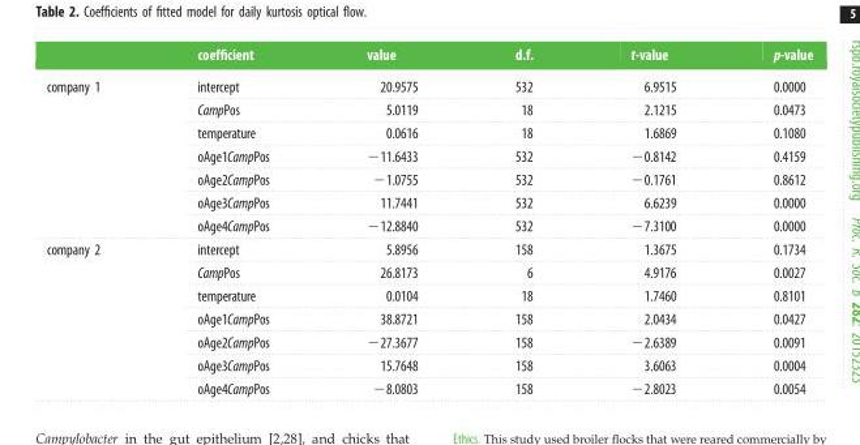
<table><thead><tr><td></td><td>coefficient</td><td>value</td><td>d.f.</td><td>t-value</td><td>p-value</td></tr></thead><tbody><tr><td rowspan="7">company 1</td><td>intercept</td><td>20.9575</td><td>532</td><td>6.9515</td><td>0.0000</td></tr><tr><td>CampPos</td><td>5.0119</td><td>18</td><td>2.1215</td><td>0.0473</td></tr><tr><td>temperature</td><td>0.0616</td><td>18</td><td>1.6869</td><td>0.1080</td></tr><tr><td>oAge1CampPos</td><td>−11.6433</td><td>532</td><td>−0.8142</td><td>0.4159</td></tr><tr><td>oAge2CampPos</td><td>−1.0755</td><td>532</td><td>−0.1761</td><td>0.8612</td></tr><tr><td>oAge3CampPos</td><td>11.7441</td><td>532</td><td>6.6239</td><td>0.0000</td></tr><tr><td>oAge4CampPos</td><td>−12.8840</td><td>532</td><td>−7.3100</td><td>0.0000</td></tr><tr><td rowspan="7">company 2</td><td>intercept</td><td>5.8956</td><td>158</td><td>1.3675</td><td>0.1734</td></tr><tr><td>CampPos</td><td>26.8173</td><td>6</td><td>4.9176</td><td>0.0027</td></tr><tr><td>temperature</td><td>0.0104</td><td>18</td><td>1.7460</td><td>0.8101</td></tr><tr><td>oAge1CampPos</td><td>38.8721</td><td>158</td><td>2.0434</td><td>0.0427</td></tr><tr><td>oAge2CampPos</td><td>−27.3677</td><td>158</td><td>−2.6389</td><td>0.0091</td></tr><tr><td>oAge3CampPos</td><td>15.7648</td><td>158</td><td>3.6063</td><td>0.0004</td></tr><tr><td>oAge4CampPos</td><td>−8.0803</td><td>158</td><td>−2.8023</td><td>0.0054</td></tr></tbody></table>